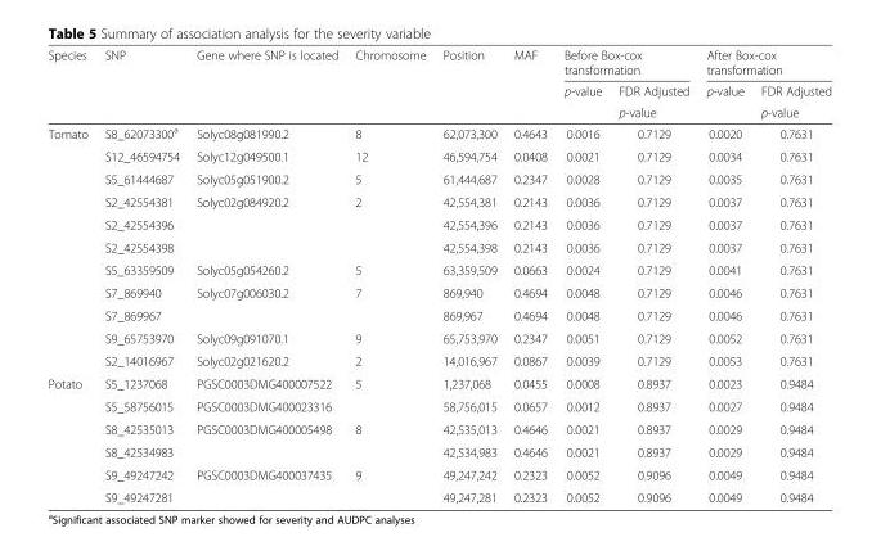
<table><thead><tr><td rowspan="3">Species</td><td rowspan="3">SNP</td><td rowspan="3">Gene where SNP is located</td><td rowspan="3">Chromosome</td><td rowspan="3">Position</td><td rowspan="3">MAF</td><td colspan="2">Before Box-cox transformation</td><td colspan="2">After Box-cox transformation</td></tr><tr><td rowspan="2">p-value</td><td rowspan="2">FDR Adjusted p-value</td><td rowspan="2">p-value</td><td rowspan="2">FDR Adjusted p-value</td></tr><tr></tr></thead><tbody><tr><td rowspan="11">Tomato</td><td>S8_62073300<sup>a</sup></td><td>Solyc08g081990.2</td><td>8</td><td>62,073,300</td><td>0.4643</td><td>0.0016</td><td>0.7129</td><td>0.0020</td><td>0.7631</td></tr><tr><td>S12_46594754</td><td>Solyc12g049500.1</td><td>12</td><td>46,594,754</td><td>0.0408</td><td>0.0021</td><td>0.7129</td><td>0.0034</td><td>0.7631</td></tr><tr><td>S5_61444687</td><td>Solyc05g051900.2</td><td>5</td><td>61,444,687</td><td>0.2347</td><td>0.0028</td><td>0.7129</td><td>0.0035</td><td>0.7631</td></tr><tr><td>S2_42554381</td><td rowspan="3">Solyc02g084920.2</td><td rowspan="3">2</td><td>42,554,381</td><td>0.2143</td><td>0.0036</td><td>0.7129</td><td>0.0037</td><td>0.7631</td></tr><tr><td>S2_42554396</td><td>42,554,396</td><td>0.2143</td><td>0.0036</td><td>0.7129</td><td>0.0037</td><td>0.7631</td></tr><tr><td>S2_42554398</td><td>42,554,398</td><td>0.2143</td><td>0.0036</td><td>0.7129</td><td>0.0037</td><td>0.7631</td></tr><tr><td>S5_63359509</td><td>Solyc05g054260.2</td><td>5</td><td>63,359,509</td><td>0.0663</td><td>0.0024</td><td>0.7129</td><td>0.0041</td><td>0.7631</td></tr><tr><td>S7_869940</td><td rowspan="2">Solyc07g006030.2</td><td rowspan="2">7</td><td>869,940</td><td>0.4694</td><td>0.0048</td><td>0.7129</td><td>0.0046</td><td>0.7631</td></tr><tr><td>S7_869967</td><td>869,967</td><td>0.4694</td><td>0.0048</td><td>0.7129</td><td>0.0046</td><td>0.7631</td></tr><tr><td>S9_65753970</td><td>Solyc09g091070.1</td><td>9</td><td>65,753,970</td><td>0.2347</td><td>0.0051</td><td>0.7129</td><td>0.0052</td><td>0.7631</td></tr><tr><td>S2_14016967</td><td>Solyc02g021620.2</td><td>2</td><td>14,016,967</td><td>0.0867</td><td>0.0039</td><td>0.7129</td><td>0.0053</td><td>0.7631</td></tr><tr><td rowspan="6">Potato</td><td>S5_1237068</td><td>PGSC0003DMG400007522</td><td rowspan="2">5</td><td>1,237,068</td><td>0.0455</td><td>0.0008</td><td>0.8937</td><td>0.0023</td><td>0.9484</td></tr><tr><td>S5_58756015</td><td>PGSC0003DMG400023316</td><td>58,756,015</td><td>0.0657</td><td>0.0012</td><td>0.8937</td><td>0.0027</td><td>0.9484</td></tr><tr><td>S8_42535013</td><td rowspan="2">PGSC0003DMG400005498</td><td rowspan="2">8</td><td>42,535,013</td><td>0.4646</td><td>0.0021</td><td>0.8937</td><td>0.0029</td><td>0.9484</td></tr><tr><td>S8_42534983</td><td>42,534,983</td><td>0.4646</td><td>0.0021</td><td>0.8937</td><td>0.0029</td><td>0.9484</td></tr><tr><td>S9_49247242</td><td rowspan="2">PGSC0003DMG400037435</td><td rowspan="2">9</td><td>49,247,242</td><td>0.2323</td><td>0.0052</td><td>0.9096</td><td>0.0049</td><td>0.9484</td></tr><tr><td>S9_49247281</td><td>49,247,281</td><td>0.2323</td><td>0.0052</td><td>0.9096</td><td>0.0049</td><td>0.9484</td></tr></tbody></table>